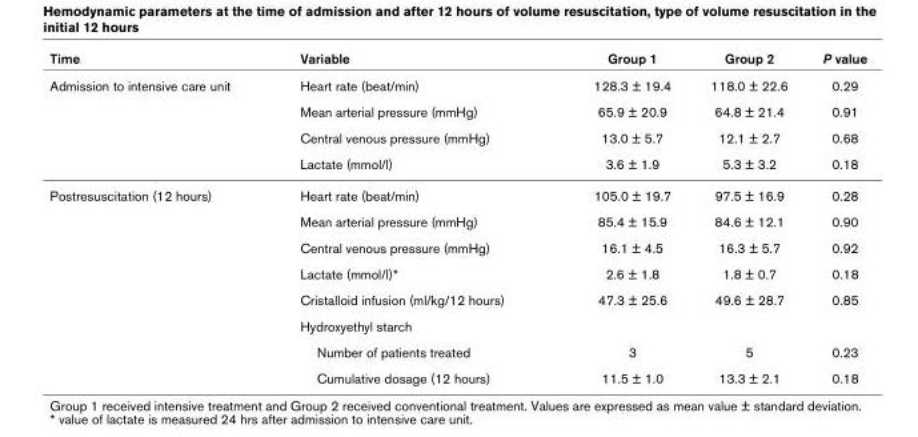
<table><thead><tr><td>Time</td><td>Variable</td><td>Group 1</td><td>Group 2</td><td>P value</td></tr></thead><tbody><tr><td rowspan="4">Admission to intensive care unit</td><td>Heart rate (beat/min)</td><td>128.3 ± 19.4</td><td>118.0 ± 22.6</td><td>0.29</td></tr><tr><td>Mean arterial pressure (mmHg)</td><td>65.9 ± 20.9</td><td>64.8 ± 21.4</td><td>0.91</td></tr><tr><td>Central venous pressure (mmHg)</td><td>13.0 ± 5.7</td><td>12.1 ± 2.7</td><td>0.68</td></tr><tr><td>Lactate (mmol/l)</td><td>3.6 ± 1.9</td><td>5.3 ± 3.2</td><td>0.18</td></tr><tr><td rowspan="8">Postresuscitation (12 hours)</td><td>Heart rate (beat/min)</td><td>105.0 ± 19.7</td><td>97.5 ± 16.9</td><td>0.28</td></tr><tr><td>Mean arterial pressure (mmHg)</td><td>85.4 ± 15.9</td><td>84.6 ± 12.1</td><td>0.90</td></tr><tr><td>Central venous pressure (mmHg)</td><td>16.1 ± 4.5</td><td>16.3 ± 5.7</td><td>0.92</td></tr><tr><td>Lactate (mmol/l)*</td><td>2.6 ± 1.8</td><td>1.8 ± 0.7</td><td>0.18</td></tr><tr><td>Cristalloid infusion (ml/kg/12 hours)</td><td>47.3 ± 25.6</td><td>49.6 ± 28.7</td><td>0.85</td></tr><tr><td>Hydroxyethyl starch</td><td></td><td></td><td></td></tr><tr><td>Number of patients treated</td><td>3</td><td>5</td><td>0.23</td></tr><tr><td>Cumulative dosage (12 hours)</td><td>11.5 ± 1.0</td><td>13.3 ± 2.1</td><td>0.18</td></tr></tbody></table>